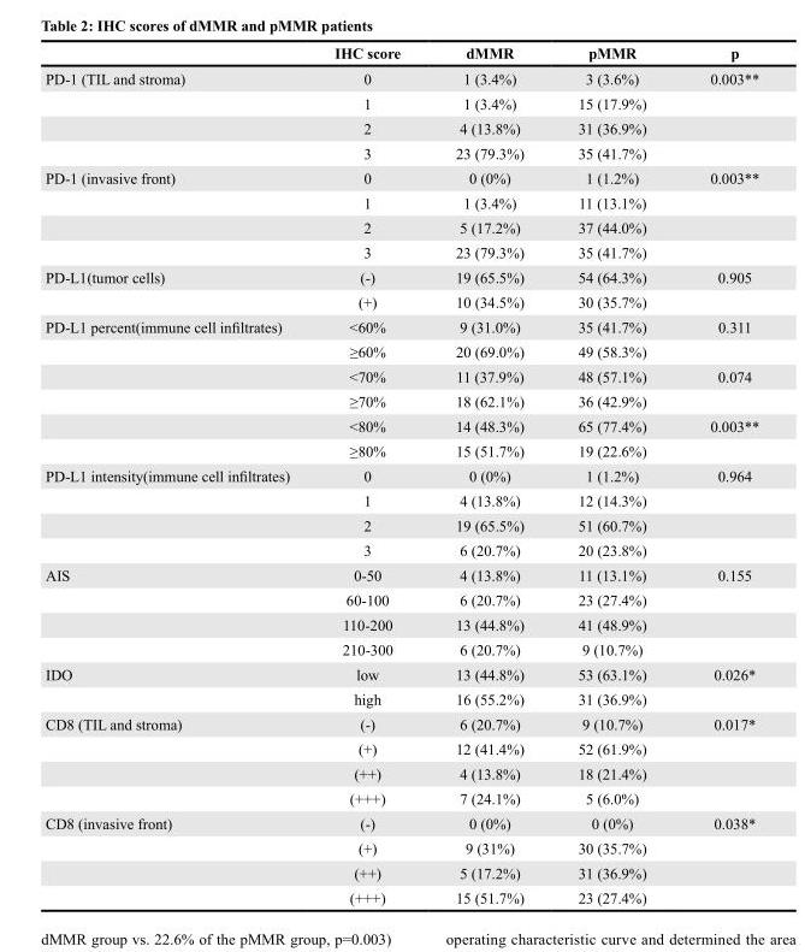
<table><thead><tr><td></td><td>IHC score</td><td>dMMR</td><td>pMMR</td><td>p</td></tr></thead><tbody><tr><td rowspan="4">PD-1 (TIL and stroma)</td><td>0</td><td>1 (3.4%)</td><td>3 (3.6%)</td><td>0.003**</td></tr><tr><td>1</td><td>1 (3.4%)</td><td>15 (17.9%)</td><td></td></tr><tr><td>2</td><td>4 (13.8%)</td><td>31 (36.9%)</td><td></td></tr><tr><td>3</td><td>23 (79.3%)</td><td>35 (41.7%)</td><td></td></tr><tr><td rowspan="4">PD-1 (invasive front)</td><td>0</td><td>0 (0%)</td><td>1 (1.2%)</td><td>0.003**</td></tr><tr><td>1</td><td>1 (3.4%)</td><td>11 (13.1%)</td><td></td></tr><tr><td>2</td><td>5 (17.2%)</td><td>37 (44.0%)</td><td></td></tr><tr><td>3</td><td>23 (79.3%)</td><td>35 (41.7%)</td><td></td></tr><tr><td rowspan="2">PD-L1(tumor cells)</td><td>(-)</td><td>19 (65.5%)</td><td>54 (64.3%)</td><td>0.905</td></tr><tr><td>(+)</td><td>10 (34.5%)</td><td>30 (35.7%)</td><td></td></tr><tr><td rowspan="6">PD-L1 percent(immune cell infiltrates)</td><td>&lt;60%</td><td>9 (31.0%)</td><td>35 (41.7%)</td><td>0.311</td></tr><tr><td>≥60%</td><td>20 (69.0%)</td><td>49 (58.3%)</td><td></td></tr><tr><td>&lt;70%</td><td>11 (37.9%)</td><td>48 (57.1%)</td><td>0.074</td></tr><tr><td>≥70%</td><td>18 (62.1%)</td><td>36 (42.9%)</td><td></td></tr><tr><td>&lt;80%</td><td>14 (48.3%)</td><td>65 (77.4%)</td><td>0.003**</td></tr><tr><td>≥80%</td><td>15 (51.7%)</td><td>19 (22.6%)</td><td></td></tr><tr><td rowspan="4">PD-L1 intensity(immune cell infiltrates)</td><td>0</td><td>0 (0%)</td><td>1 (1.2%)</td><td>0.964</td></tr><tr><td>1</td><td>4 (13.8%)</td><td>12 (14.3%)</td><td></td></tr><tr><td>2</td><td>19 (65.5%)</td><td>51 (60.7%)</td><td></td></tr><tr><td>3</td><td>6 (20.7%)</td><td>20 (23.8%)</td><td></td></tr><tr><td rowspan="4">AIS</td><td>0-50</td><td>4 (13.8%)</td><td>11 (13.1%)</td><td>0.155</td></tr><tr><td>60-100</td><td>6 (20.7%)</td><td>23 (27.4%)</td><td></td></tr><tr><td>110-200</td><td>13 (44.8%)</td><td>41 (48.9%)</td><td></td></tr><tr><td>210-300</td><td>6 (20.7%)</td><td>9 (10.7%)</td><td></td></tr><tr><td rowspan="2">IDO</td><td>low</td><td>13 (44.8%)</td><td>53 (63.1%)</td><td>0.026*</td></tr><tr><td>high</td><td>16 (55.2%)</td><td>31 (36.9%)</td><td></td></tr><tr><td rowspan="4">CD8 (TIL and stroma)</td><td>(-)</td><td>6 (20.7%)</td><td>9 (10.7%)</td><td>0.017*</td></tr><tr><td>(+)</td><td>12 (41.4%)</td><td>52 (61.9%)</td><td></td></tr><tr><td>(++)</td><td>4 (13.8%)</td><td>18 (21.4%)</td><td></td></tr><tr><td>(+++)</td><td>7 (24.1%)</td><td>5 (6.0%)</td><td></td></tr><tr><td rowspan="4">CD8 (invasive front)</td><td>(-)</td><td>0 (0%)</td><td>0 (0%)</td><td>0.038*</td></tr><tr><td>(+)</td><td>9 (31%)</td><td>30 (35.7%)</td><td></td></tr><tr><td>(++)</td><td>5 (17.2%)</td><td>31 (36.9%)</td><td></td></tr><tr><td>(+++)</td><td>15 (51.7%)</td><td>23 (27.4%)</td><td></td></tr></tbody></table>